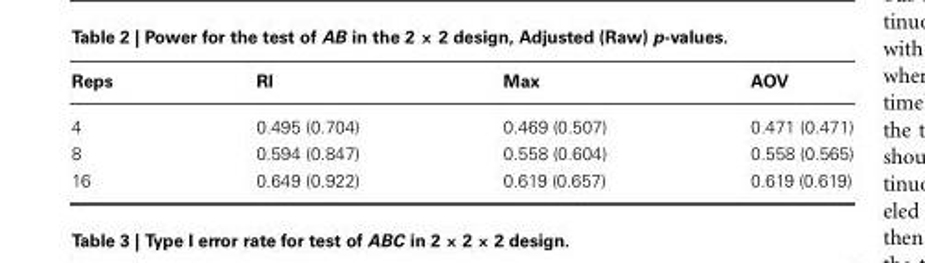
<table><thead><tr><td>Reps</td><td>RI</td><td>Max</td><td>AOV</td></tr></thead><tbody><tr><td>4</td><td>0.495 (0.704)</td><td>0.469 (0.507)</td><td>0.471 (0.471)</td></tr><tr><td>8</td><td>0.594 (0.847)</td><td>0.558 (0.604)</td><td>0.558 (0.565)</td></tr><tr><td>16</td><td>0.649 (0.922)</td><td>0.619 (0.657)</td><td>0.619 (0.619)</td></tr></tbody></table>